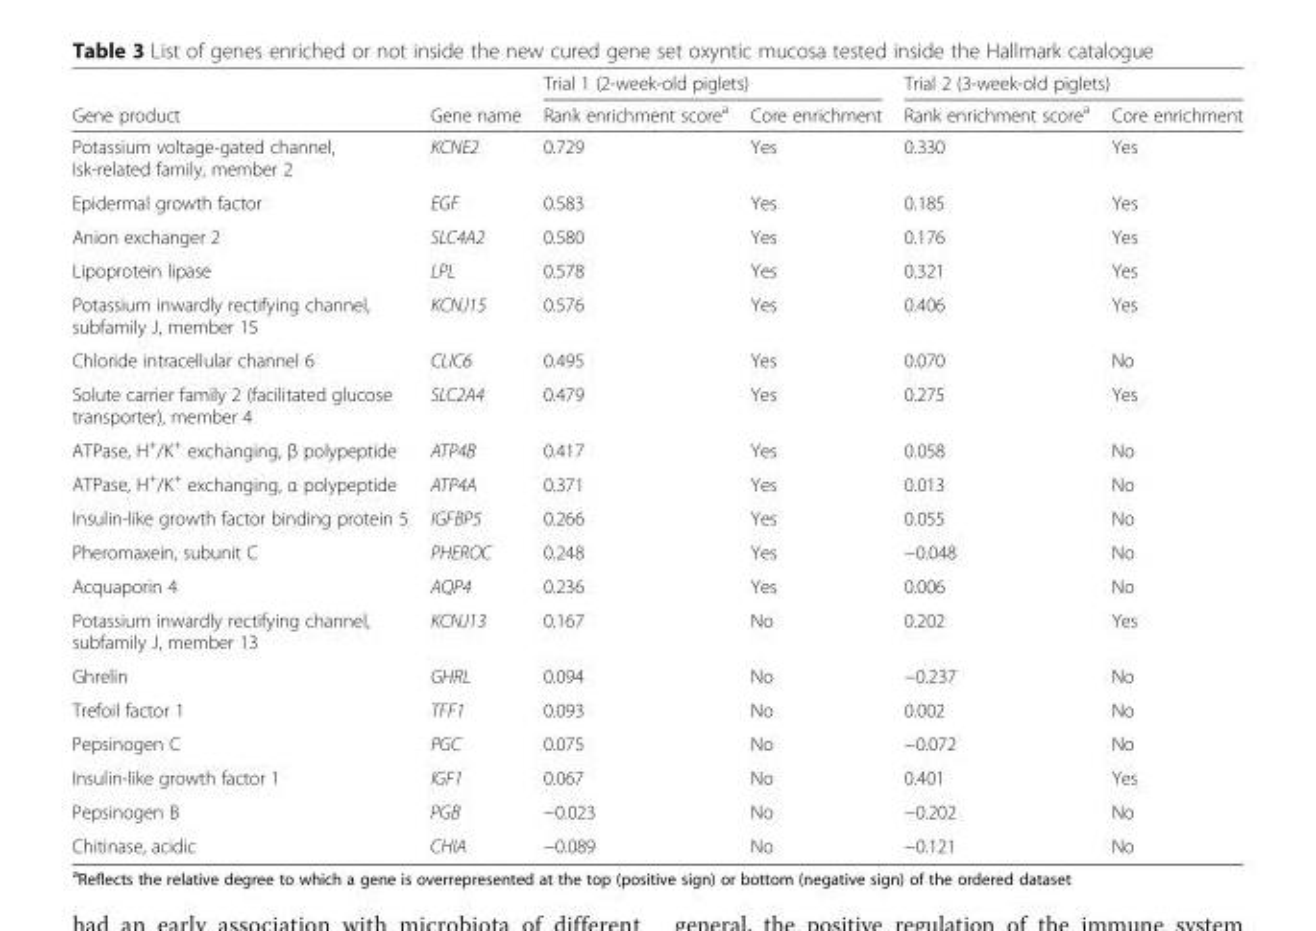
<table><thead><tr><td rowspan="2">Gene product</td><td rowspan="2">Gene name</td><td colspan="2">Trial 1 (2-week-old piglets)</td><td colspan="2">Trial 2 (3-week-old piglets)</td></tr><tr><td>Rank enrichment score<sup>a</sup></td><td>Core enrichment</td><td>Rank enrichment score<sup>a</sup></td><td>Core enrichment</td></tr></thead><tbody><tr><td>Potassium voltage-gated channel, Isk-related family, member 2</td><td>KCNE2</td><td>0.729</td><td>Yes</td><td>0.330</td><td>Yes</td></tr><tr><td>Epidermal growth factor</td><td>EGF</td><td>0.583</td><td>Yes</td><td>0.185</td><td>Yes</td></tr><tr><td>Anion exchanger 2</td><td>SLC4A2</td><td>0.580</td><td>Yes</td><td>0.176</td><td>Yes</td></tr><tr><td>Lipoprotein lipase</td><td>LPL</td><td>0.578</td><td>Yes</td><td>0.321</td><td>Yes</td></tr><tr><td>Potassium inwardly rectifying channel, subfamily J, member 15</td><td>KCNJ15</td><td>0.576</td><td>Yes</td><td>0.406</td><td>Yes</td></tr><tr><td>Chloride intracellular channel 6</td><td>CLIC6</td><td>0.495</td><td>Yes</td><td>0.070</td><td>No</td></tr><tr><td>Solute carrier family 2 (facilitated glucose transporter), member 4</td><td>SLC2A4</td><td>0.479</td><td>Yes</td><td>0.275</td><td>Yes</td></tr><tr><td>ATPase, H<sup>+</sup>/K<sup>+</sup> exchanging, β polypeptide</td><td>ATP4B</td><td>0.417</td><td>Yes</td><td>0.058</td><td>No</td></tr><tr><td>ATPase, H<sup>+</sup>/K<sup>+</sup> exchanging, α polypeptide</td><td>ATP4A</td><td>0.371</td><td>Yes</td><td>0.013</td><td>No</td></tr><tr><td>Insulin-like growth factor binding protein 5</td><td>IGFBP5</td><td>0.266</td><td>Yes</td><td>0.055</td><td>No</td></tr><tr><td>Pheromaxein, subunit C</td><td>PHEROC</td><td>0.248</td><td>Yes</td><td>−0.048</td><td>No</td></tr><tr><td>Acquaporin 4</td><td>AQP4</td><td>0.236</td><td>Yes</td><td>0.006</td><td>No</td></tr><tr><td>Potassium inwardly rectifying channel, subfamily J, member 13</td><td>KCNJ13</td><td>0.167</td><td>No</td><td>0.202</td><td>Yes</td></tr><tr><td>Ghrelin</td><td>GHRL</td><td>0.094</td><td>No</td><td>−0.237</td><td>No</td></tr><tr><td>Trefoil factor 1</td><td>TFF1</td><td>0.093</td><td>No</td><td>0.002</td><td>No</td></tr><tr><td>Pepsinogen C</td><td>PGC</td><td>0.075</td><td>No</td><td>−0.072</td><td>No</td></tr><tr><td>Insulin-like growth factor 1</td><td>IGF1</td><td>0.067</td><td>No</td><td>0.401</td><td>Yes</td></tr><tr><td>Pepsinogen B</td><td>PGB</td><td>−0.023</td><td>No</td><td>−0.202</td><td>No</td></tr><tr><td>Chitinase, acidic</td><td>CHIA</td><td>−0.089</td><td>No</td><td>−0.121</td><td>No</td></tr></tbody></table>